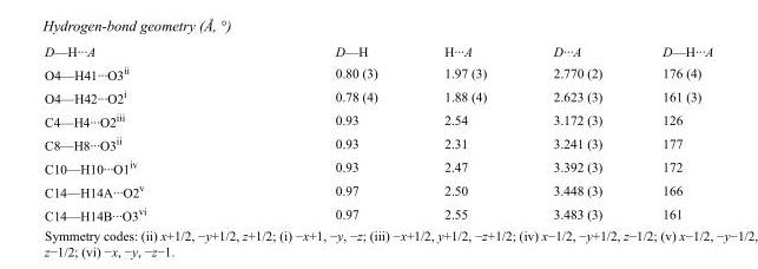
<table><tbody><tr><td>D—H···A</td><td>D—H</td><td>H···A</td><td>D···A</td><td>D—H···A</td></tr><tr><td>O4—H41···O3<sup>ii</sup></td><td>0.80 (3)</td><td>1.97 (3)</td><td>2.770 (2)</td><td>176 (4)</td></tr><tr><td>O4—H42···O2<sup>i</sup></td><td>0.78 (4)</td><td>1.88 (4)</td><td>2.623 (3)</td><td>161 (3)</td></tr><tr><td>C4—H4···O2<sup>iii</sup></td><td>0.93</td><td>2.54</td><td>3.172 (3)</td><td>126</td></tr><tr><td>C8—H8···O3<sup>ii</sup></td><td>0.93</td><td>2.31</td><td>3.241 (3)</td><td>177</td></tr><tr><td>C10—H10···O1<sup>iv</sup></td><td>0.93</td><td>2.47</td><td>3.392 (3)</td><td>172</td></tr><tr><td>C14—H14A···O2<sup>v</sup></td><td>0.97</td><td>2.50</td><td>3.448 (3)</td><td>166</td></tr><tr><td>C14—H14B···O3<sup>vi</sup></td><td>0.97</td><td>2.55</td><td>3.483 (3)</td><td>161</td></tr></tbody></table>